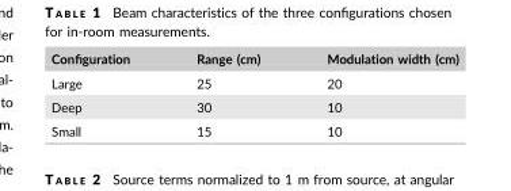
<table><thead><tr><td>Configuration</td><td>Range (cm)</td><td>Modulation width (cm)</td></tr></thead><tbody><tr><td>Large</td><td>25</td><td>20</td></tr><tr><td>Deep</td><td>30</td><td>10</td></tr><tr><td>Small</td><td>15</td><td>10</td></tr></tbody></table>